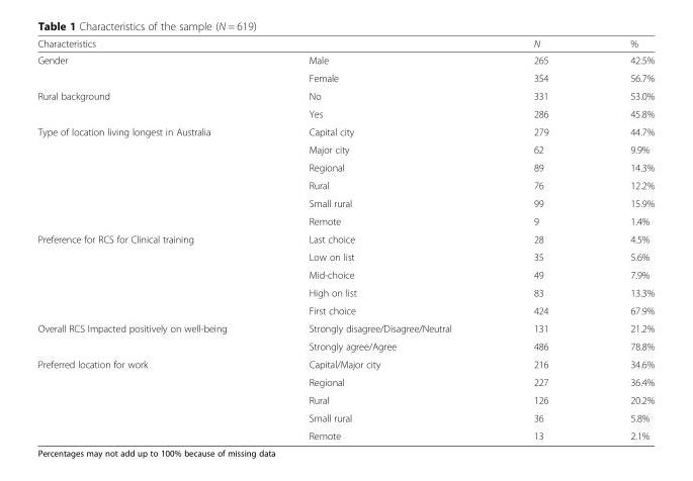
<table><thead><tr><td>Characteristics</td><td></td><td>N</td><td>%</td></tr></thead><tbody><tr><td rowspan="2">Gender</td><td>Male</td><td>265</td><td>42.5%</td></tr><tr><td>Female</td><td>354</td><td>56.7%</td></tr><tr><td rowspan="2">Rural background</td><td>No</td><td>331</td><td>53.0%</td></tr><tr><td>Yes</td><td>286</td><td>45.8%</td></tr><tr><td rowspan="6">Type of location living longest in Australia</td><td>Capital city</td><td>279</td><td>44.7%</td></tr><tr><td>Major city</td><td>62</td><td>9.9%</td></tr><tr><td>Regional</td><td>89</td><td>14.3%</td></tr><tr><td>Rural</td><td>76</td><td>12.2%</td></tr><tr><td>Small rural</td><td>99</td><td>15.9%</td></tr><tr><td>Remote</td><td>9</td><td>1.4%</td></tr><tr><td rowspan="5">Preference for RCS for Clinical training</td><td>Last choice</td><td>28</td><td>4.5%</td></tr><tr><td>Low on list</td><td>35</td><td>5.6%</td></tr><tr><td>Mid-choice</td><td>49</td><td>7.9%</td></tr><tr><td>High on list</td><td>83</td><td>13.3%</td></tr><tr><td>First choice</td><td>424</td><td>67.9%</td></tr><tr><td rowspan="2">Overall RCS Impacted positively on well-being</td><td>Strongly disagree/Disagree/Neutral</td><td>131</td><td>21.2%</td></tr><tr><td>Strongly agree/Agree</td><td>486</td><td>78.8%</td></tr><tr><td rowspan="5">Preferred location for work</td><td>Capital/Major city</td><td>216</td><td>34.6%</td></tr><tr><td>Regional</td><td>227</td><td>36.4%</td></tr><tr><td>Rural</td><td>126</td><td>20.2%</td></tr><tr><td>Small rural</td><td>36</td><td>5.8%</td></tr><tr><td>Remote</td><td>13</td><td>2.1%</td></tr></tbody></table>